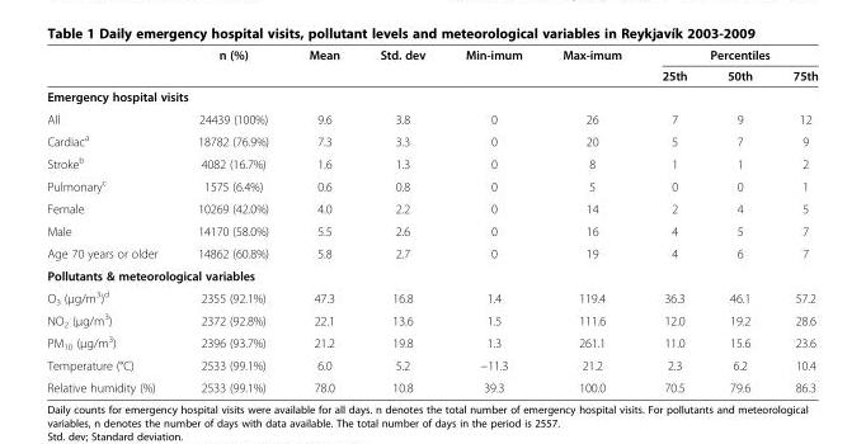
<table><thead><tr><td rowspan="2"></td><td rowspan="2">n (%)</td><td rowspan="2">Mean</td><td rowspan="2">Std. dev</td><td rowspan="2">Min-imum</td><td rowspan="2">Max-imum</td><td colspan="3">Percentiles</td></tr><tr><td>25th</td><td>50th</td><td>75th</td></tr></thead><tbody><tr><td colspan="9">Emergency hospital visits</td></tr><tr><td>All</td><td>24439 (100%)</td><td>9.6</td><td>3.8</td><td>0</td><td>26</td><td>7</td><td>9</td><td>12</td></tr><tr><td>Cardiac<sup>a</sup></td><td>18782 (76.9%)</td><td>7.3</td><td>3.3</td><td>0</td><td>20</td><td>5</td><td>7</td><td>9</td></tr><tr><td>Stroke<sup>b</sup></td><td>4082 (16.7%)</td><td>1.6</td><td>1.3</td><td>0</td><td>8</td><td>1</td><td>1</td><td>2</td></tr><tr><td>Pulmonary<sup>c</sup></td><td>1575 (6.4%)</td><td>0.6</td><td>0.8</td><td>0</td><td>5</td><td>0</td><td>0</td><td>1</td></tr><tr><td>Female</td><td>10269 (42.0%)</td><td>4.0</td><td>2.2</td><td>0</td><td>14</td><td>2</td><td>4</td><td>5</td></tr><tr><td>Male</td><td>14170 (58.0%)</td><td>5.5</td><td>2.6</td><td>0</td><td>16</td><td>4</td><td>5</td><td>7</td></tr><tr><td>Age 70 years or older</td><td>14862 (60.8%)</td><td>5.8</td><td>2.7</td><td>0</td><td>19</td><td>4</td><td>6</td><td>7</td></tr><tr><td colspan="9">Pollutants &amp; meteorological variables</td></tr><tr><td>O<sub>3</sub> (μg/m<sup>3</sup>)<sup>d</sup></td><td>2355 (92.1%)</td><td>47.3</td><td>16.8</td><td>1.4</td><td>119.4</td><td>36.3</td><td>46.1</td><td>57.2</td></tr><tr><td>NO<sub>2</sub> (μg/m<sup>3</sup>)</td><td>2372 (92.8%)</td><td>22.1</td><td>13.6</td><td>1.5</td><td>111.6</td><td>12.0</td><td>19.2</td><td>28.6</td></tr><tr><td>PM<sub>10</sub> (μg/m<sup>3</sup>)</td><td>2396 (93.7%)</td><td>21.2</td><td>19.8</td><td>1.3</td><td>261.1</td><td>11.0</td><td>15.6</td><td>23.6</td></tr><tr><td>Temperature (°C)</td><td>2533 (99.1%)</td><td>6.0</td><td>5.2</td><td>−11.3</td><td>21.2</td><td>2.3</td><td>6.2</td><td>10.4</td></tr><tr><td>Relative humidity (%)</td><td>2533 (99.1%)</td><td>78.0</td><td>10.8</td><td>39.3</td><td>100.0</td><td>70.5</td><td>79.6</td><td>86.3</td></tr></tbody></table>